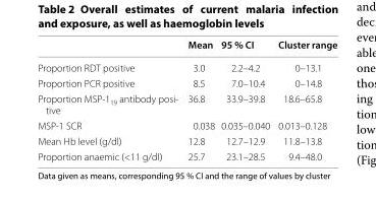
<table><thead><tr><td></td><td>Mean</td><td>95 % CI</td><td>Cluster range</td></tr></thead><tbody><tr><td>Proportion RDT positive</td><td>3.0</td><td>2.2–4.2</td><td>0–13.1</td></tr><tr><td>Proportion PCR positive</td><td>8.5</td><td>7.0–10.4</td><td>0–14.8</td></tr><tr><td>Proportion MSP-119 antibody posi- tive</td><td>36.8</td><td>33.9–39.8</td><td>18.6–65.8</td></tr><tr><td>MSP-1 SCR</td><td>0.038</td><td>0.035–0.040</td><td>0.013–0.128</td></tr><tr><td>Mean Hb level (g/dl)</td><td>12.8</td><td>12.7–12.9</td><td>11.8–13.8</td></tr><tr><td>Proportion anaemic (&lt;11 g/dl)</td><td>25.7</td><td>23.1–28.5</td><td>9.4–48.0</td></tr></tbody></table>